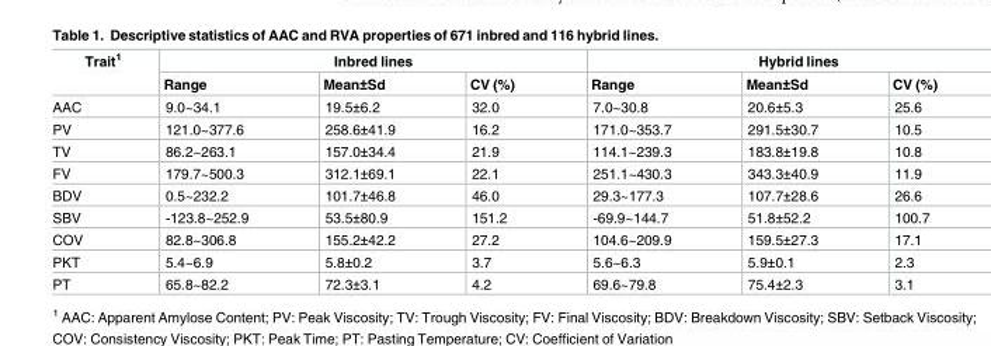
<table><thead><tr><td rowspan="2">Trait<sup>1</sup></td><td colspan="3">Inbred lines</td><td colspan="3">Hybrid lines</td></tr><tr><td>Range</td><td>Mean±Sd</td><td>CV (%)</td><td>Range</td><td>Mean±Sd</td><td>CV (%)</td></tr></thead><tbody><tr><td>AAC</td><td>9.0~34.1</td><td>19.5±6.2</td><td>32.0</td><td>7.0~30.8</td><td>20.6±5.3</td><td>25.6</td></tr><tr><td>PV</td><td>121.0~377.6</td><td>258.6±41.9</td><td>16.2</td><td>171.0~353.7</td><td>291.5±30.7</td><td>10.5</td></tr><tr><td>TV</td><td>86.2~263.1</td><td>157.0±34.4</td><td>21.9</td><td>114.1~239.3</td><td>183.8±19.8</td><td>10.8</td></tr><tr><td>FV</td><td>179.7~500.3</td><td>312.1±69.1</td><td>22.1</td><td>251.1~430.3</td><td>343.3±40.9</td><td>11.9</td></tr><tr><td>BDV</td><td>0.5~232.2</td><td>101.7±46.8</td><td>46.0</td><td>29.3~177.3</td><td>107.7±28.6</td><td>26.6</td></tr><tr><td>SBV</td><td>-123.8~252.9</td><td>53.5±80.9</td><td>151.2</td><td>-69.9~144.7</td><td>51.8±52.2</td><td>100.7</td></tr><tr><td>COV</td><td>82.8~306.8</td><td>155.2±42.2</td><td>27.2</td><td>104.6~209.9</td><td>159.5±27.3</td><td>17.1</td></tr><tr><td>PKT</td><td>5.4~6.9</td><td>5.8±0.2</td><td>3.7</td><td>5.6~6.3</td><td>5.9±0.1</td><td>2.3</td></tr><tr><td>PT</td><td>65.8~82.2</td><td>72.3±3.1</td><td>4.2</td><td>69.6~79.8</td><td>75.4±2.3</td><td>3.1</td></tr></tbody></table>